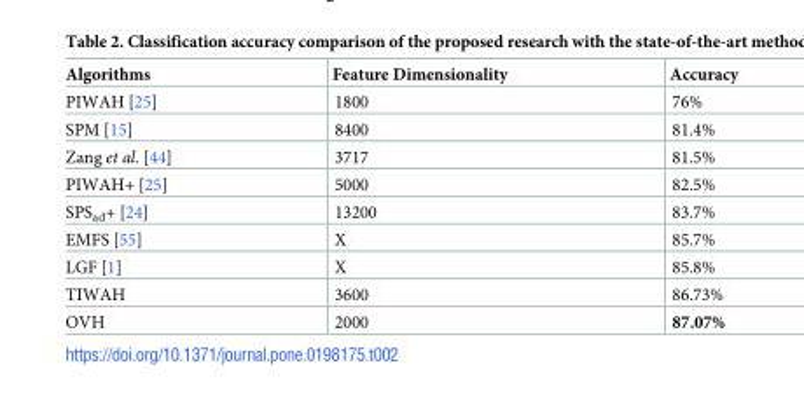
<table><thead><tr><td>Algorithms</td><td>Feature Dimensionality</td><td>Accuracy</td></tr></thead><tbody><tr><td>PIWAH [25]</td><td>1800</td><td>76%</td></tr><tr><td>SPM [15]</td><td>8400</td><td>81.4%</td></tr><tr><td>Zang et al. [44]</td><td>3717</td><td>81.5%</td></tr><tr><td>PIWAH+ [25]</td><td>5000</td><td>82.5%</td></tr><tr><td>SPS<sub>ad</sub>+ [24]</td><td>13200</td><td>83.7%</td></tr><tr><td>EMFS [55]</td><td>X</td><td>85.7%</td></tr><tr><td>LGF [1]</td><td>X</td><td>85.8%</td></tr><tr><td>TIWAH</td><td>3600</td><td>86.73%</td></tr><tr><td>OVH</td><td>2000</td><td>87.07%</td></tr></tbody></table>